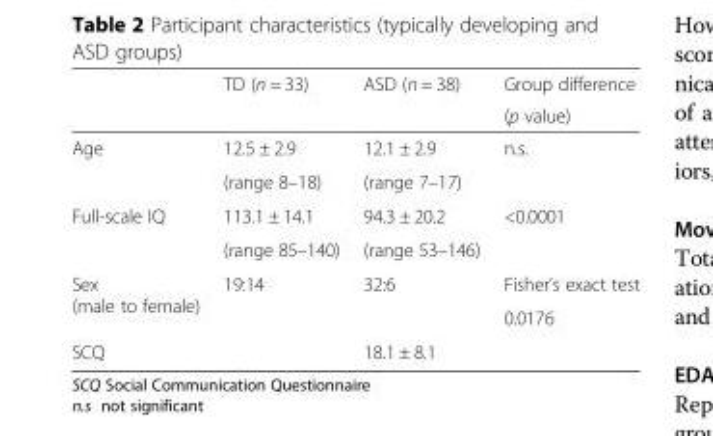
<table><thead><tr><td rowspan="2"></td><td rowspan="2">TD (n = 33)</td><td rowspan="2">ASD (n = 38)</td><td rowspan="2">Group difference (p value)</td></tr><tr></tr></thead><tbody><tr><td rowspan="2">Age</td><td>12.5 ± 2.9</td><td>12.1 ± 2.9</td><td rowspan="2">n.s.</td></tr><tr><td>(range 8–18)</td><td>(range 7–17)</td></tr><tr><td rowspan="2">Full-scale IQ</td><td>113.1 ± 14.1</td><td>94.3 ± 20.2</td><td rowspan="2">&lt;0.0001</td></tr><tr><td>(range 85–140)</td><td>(range 53–146)</td></tr><tr><td rowspan="2">Sex (male to female)</td><td>19:14</td><td>32:6</td><td>Fisher’s exact test</td></tr><tr><td></td><td></td><td>0.0176</td></tr><tr><td>SCQ</td><td></td><td>18.1 ± 8.1</td><td></td></tr></tbody></table>